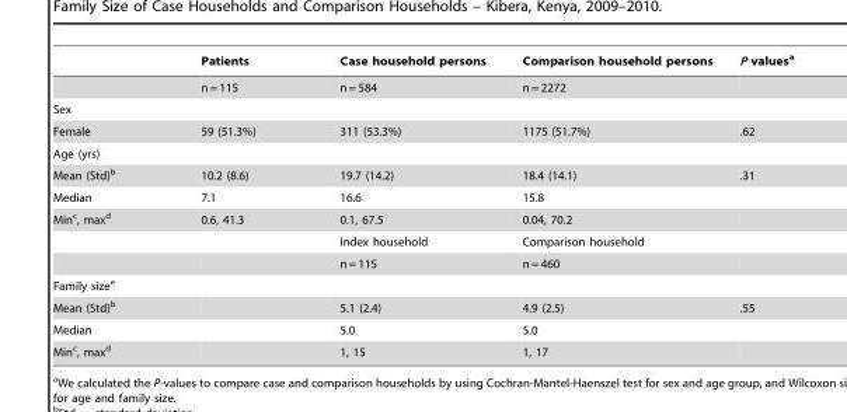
<table><thead><tr><td></td><td>Patients</td><td>Case household persons</td><td>Comparison household persons</td><td>P values<sup>a</sup></td></tr></thead><tbody><tr><td></td><td>n = 115</td><td>n = 584</td><td>n = 2272</td><td></td></tr><tr><td colspan="5">Sex</td></tr><tr><td>Female</td><td>59 (51.3%)</td><td>311 (53.3%)</td><td>1175 (51.7%)</td><td>.62</td></tr><tr><td colspan="5">Age (yrs)</td></tr><tr><td>Mean (Std)<sup>b</sup></td><td>10.2 (8.6)</td><td>19.7 (14.2)</td><td>18.4 (14.1)</td><td>.31</td></tr><tr><td>Median</td><td>7.1</td><td>16.6</td><td>15.8</td><td></td></tr><tr><td rowspan="3">Min<sup>c</sup>, max<sup>d</sup></td><td>0.6, 41.3</td><td>0.1, 67.5</td><td>0.04, 70.2</td><td></td></tr><tr><td></td><td>Index household</td><td>Comparison household</td><td></td></tr><tr><td></td><td>n = 115</td><td>n = 460</td><td></td></tr><tr><td colspan="5">Family size<sup>e</sup></td></tr><tr><td>Mean (Std)<sup>b</sup></td><td></td><td>5.1 (2.4)</td><td>4.9 (2.5)</td><td>.55</td></tr><tr><td>Median</td><td></td><td>5.0</td><td>5.0</td><td></td></tr><tr><td>Min<sup>c</sup>, max<sup>d</sup></td><td></td><td>1, 15</td><td>1, 17</td><td></td></tr></tbody></table>